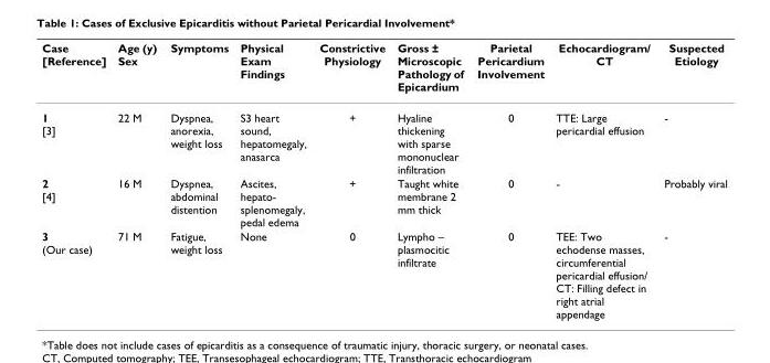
<table><thead><tr><td>Case [Reference]</td><td>Age (y) Sex</td><td>Symptoms</td><td>Physical Exam Findings</td><td>Constrictive Physiology</td><td>Gross ± Microscopic Pathology of Epicardium</td><td>Parietal Pericardium Involvement</td><td>Echocardiogram/ CT</td><td>Suspected Etiology</td></tr></thead><tbody><tr><td>1 [3]</td><td>22 M</td><td>Dyspnea, anorexia, weight loss</td><td>S3 heart sound, hepatomegaly, anasarca</td><td>+</td><td>Hyaline thickening with sparse mononuclear infiltration</td><td>0</td><td>TTE: Large pericardial effusion</td><td>-</td></tr><tr><td>2 [4]</td><td>16 M</td><td>Dyspnea, abdominal distention</td><td>Ascites, hepato- splenomegaly, pedal edema</td><td>+</td><td>Taught white membrane 2 mm thick</td><td>0</td><td>-</td><td>Probably viral</td></tr><tr><td>3 (Our case)</td><td>71 M</td><td>Fatigue, weight loss</td><td>None</td><td>0</td><td>Lympho – plasmocitic infiltrate</td><td>0</td><td>TEE: Two echodense masses, circumferential pericardial effusion/ CT: Filling defect in right atrial appendage</td><td>-</td></tr></tbody></table>